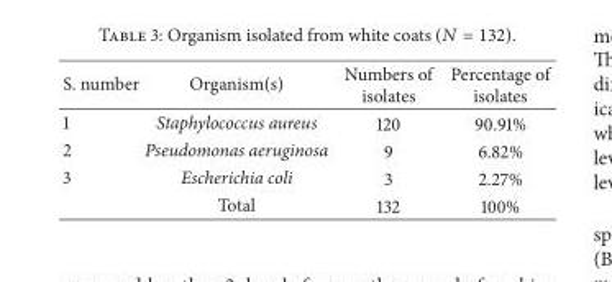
<table><thead><tr><td>S. number</td><td>Organism(s)</td><td>Numbers of isolates</td><td>Percentage of isolates</td></tr></thead><tbody><tr><td>1</td><td>Staphylococcus aureus</td><td>120</td><td>90.91%</td></tr><tr><td>2</td><td>Pseudomonas aeruginosa</td><td>9</td><td>6.82%</td></tr><tr><td rowspan="2">3</td><td>Escherichia coli</td><td>3</td><td>2.27%</td></tr><tr><td>Total</td><td>132</td><td>100%</td></tr></tbody></table>